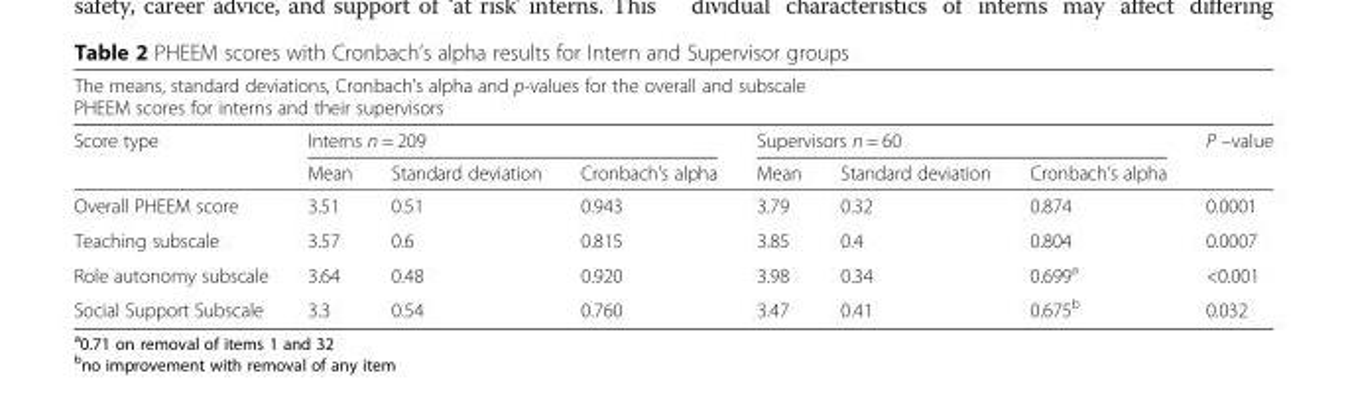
<table><thead><tr><td colspan="8">The means, standard deviations, Cronbach’s alpha and p-values for the overall and subscale PHEEM scores for interns and their supervisors</td></tr><tr><td rowspan="2">Score type</td><td colspan="3">Interns n = 209</td><td colspan="3">Supervisors n = 60</td><td rowspan="2">P –value</td></tr><tr><td>Mean</td><td>Standard deviation</td><td>Cronbach’s alpha</td><td>Mean</td><td>Standard deviation</td><td>Cronbach’s alpha</td></tr></thead><tbody><tr><td>Overall PHEEM score</td><td>3.51</td><td>0.51</td><td>0.943</td><td>3.79</td><td>0.32</td><td>0.874</td><td>0.0001</td></tr><tr><td>Teaching subscale</td><td>3.57</td><td>0.6</td><td>0.815</td><td>3.85</td><td>0.4</td><td>0.804</td><td>0.0007</td></tr><tr><td>Role autonomy subscale</td><td>3.64</td><td>0.48</td><td>0.920</td><td>3.98</td><td>0.34</td><td>0.699<sup>a</sup></td><td>&lt;0.001</td></tr><tr><td>Social Support Subscale</td><td>3.3</td><td>0.54</td><td>0.760</td><td>3.47</td><td>0.41</td><td>0.675<sup>b</sup></td><td>0.032</td></tr></tbody></table>